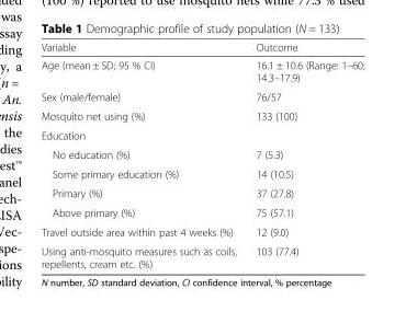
<table><thead><tr><td>Variable</td><td>Outcome</td></tr></thead><tbody><tr><td>Age (mean ± SD; 95 % CI)</td><td>16.1 ± 10.6 (Range: 1–60; 14.3–17.9)</td></tr><tr><td>Sex (male/female)</td><td>76/57</td></tr><tr><td>Mosquito net using (%)</td><td>133 (100)</td></tr><tr><td colspan="2">Education</td></tr><tr><td>No education (%)</td><td>7 (5.3)</td></tr><tr><td>Some primary education (%)</td><td>14 (10.5)</td></tr><tr><td>Primary (%)</td><td>37 (27.8)</td></tr><tr><td>Above primary (%)</td><td>75 (57.1)</td></tr><tr><td>Travel outside area within past 4 weeks (%)</td><td>12 (9.0)</td></tr><tr><td>Using anti-mosquito measures such as coils, repellents, cream etc. (%)</td><td>103 (77.4)</td></tr></tbody></table>